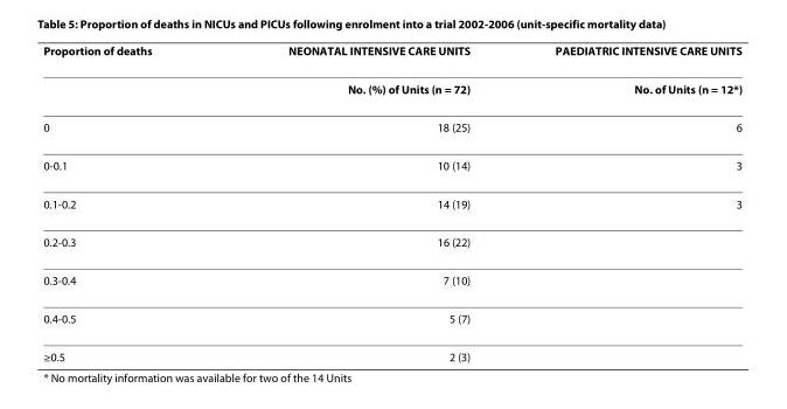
<table><thead><tr><td>Proportion of deaths</td><td>NEONATAL INTENSIVE CARE UNITS</td><td>PAEDIATRIC INTENSIVE CARE UNITS</td></tr></thead><tbody><tr><td></td><td>No. (%) of Units (n = 72)</td><td>No. of Units (n = 12*)</td></tr><tr><td>0</td><td>18 (25)</td><td>6</td></tr><tr><td>0-0.1</td><td>10 (14)</td><td>3</td></tr><tr><td>0.1-0.2</td><td>14 (19)</td><td>3</td></tr><tr><td>0.2-0.3</td><td>16 (22)</td><td></td></tr><tr><td>0.3-0.4</td><td>7 (10)</td><td></td></tr><tr><td>0.4-0.5</td><td>5 (7)</td><td></td></tr><tr><td>≥0.5</td><td>2 (3)</td><td></td></tr></tbody></table>